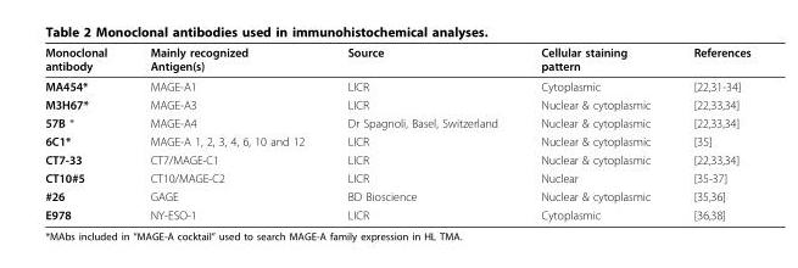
<table><thead><tr><td>Monoclonal antibody</td><td>Mainly recognized Antigen(s)</td><td>Source</td><td>Cellular staining pattern</td><td>References</td></tr></thead><tbody><tr><td>MA454*</td><td>MAGE-A1</td><td>LICR</td><td>Cytoplasmic</td><td>[22,31-34]</td></tr><tr><td>M3H67*</td><td>MAGE-A3</td><td>LICR</td><td>Nuclear &amp; cytoplasmic</td><td>[22,33,34]</td></tr><tr><td>57B *</td><td>MAGE-A4</td><td>Dr Spagnoli, Basel, Switzerland</td><td>Nuclear &amp; cytoplasmic</td><td>[22,33,34]</td></tr><tr><td>6C1*</td><td>MAGE-A 1, 2, 3, 4, 6, 10 and 12</td><td>LICR</td><td>Nuclear &amp; cytoplasmic</td><td>[35]</td></tr><tr><td>CT7-33</td><td>CT7/MAGE-C1</td><td>LICR</td><td>Nuclear &amp; cytoplasmic</td><td>[22,33,34]</td></tr><tr><td>CT10#5</td><td>CT10/MAGE-C2</td><td>LICR</td><td>Nuclear</td><td>[35-37]</td></tr><tr><td>#26</td><td>GAGE</td><td>BD Bioscience</td><td>Nuclear &amp; cytoplasmic</td><td>[35,36]</td></tr><tr><td>E978</td><td>NY-ESO-1</td><td>LICR</td><td>Cytoplasmic</td><td>[36,38]</td></tr></tbody></table>